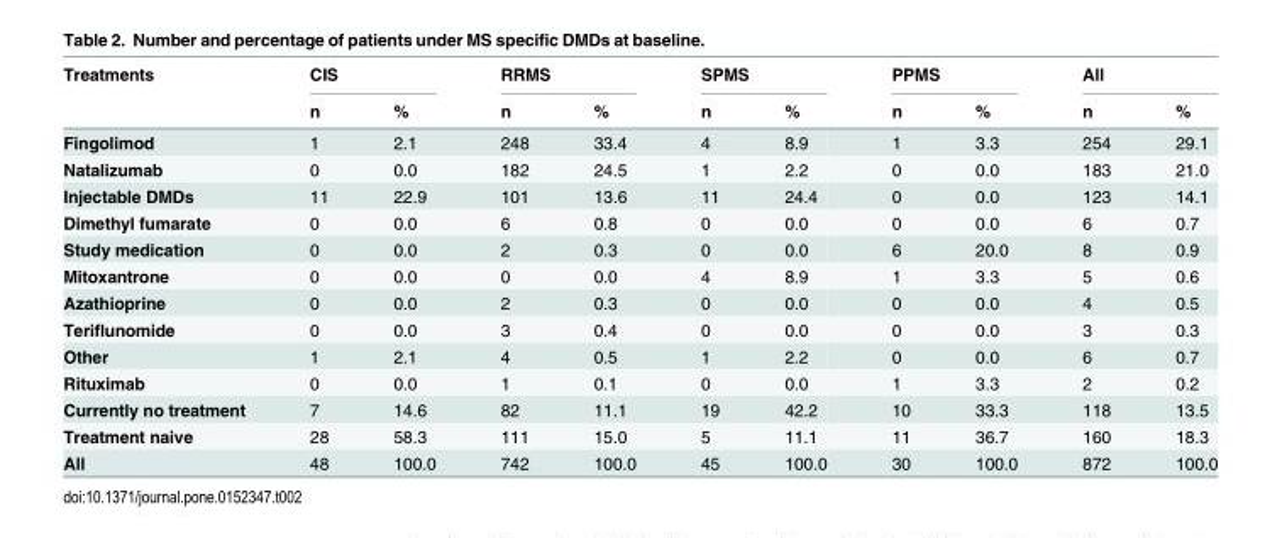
<table><thead><tr><td rowspan="2">Treatments</td><td colspan="2">CIS</td><td colspan="2">RRMS</td><td colspan="2">SPMS</td><td colspan="2">PPMS</td><td colspan="2">All</td></tr><tr><td>n</td><td>%</td><td>n</td><td>%</td><td>n</td><td>%</td><td>n</td><td>%</td><td>n</td><td>%</td></tr></thead><tbody><tr><td>Fingolimod</td><td>1</td><td>2.1</td><td>248</td><td>33.4</td><td>4</td><td>8.9</td><td>1</td><td>3.3</td><td>254</td><td>29.1</td></tr><tr><td>Natalizumab</td><td>0</td><td>0.0</td><td>182</td><td>24.5</td><td>1</td><td>2.2</td><td>0</td><td>0.0</td><td>183</td><td>21.0</td></tr><tr><td>Injectable DMDs</td><td>11</td><td>22.9</td><td>101</td><td>13.6</td><td>11</td><td>24.4</td><td>0</td><td>0.0</td><td>123</td><td>14.1</td></tr><tr><td>Dimethyl fumarate</td><td>0</td><td>0.0</td><td>6</td><td>0.8</td><td>0</td><td>0.0</td><td>0</td><td>0.0</td><td>6</td><td>0.7</td></tr><tr><td>Study medication</td><td>0</td><td>0.0</td><td>2</td><td>0.3</td><td>0</td><td>0.0</td><td>6</td><td>20.0</td><td>8</td><td>0.9</td></tr><tr><td>Mitoxantrone</td><td>0</td><td>0.0</td><td>0</td><td>0.0</td><td>4</td><td>8.9</td><td>1</td><td>3.3</td><td>5</td><td>0.6</td></tr><tr><td>Azathioprine</td><td>0</td><td>0.0</td><td>2</td><td>0.3</td><td>0</td><td>0.0</td><td>0</td><td>0.0</td><td>4</td><td>0.5</td></tr><tr><td>Teriflunomide</td><td>0</td><td>0.0</td><td>3</td><td>0.4</td><td>0</td><td>0.0</td><td>0</td><td>0.0</td><td>3</td><td>0.3</td></tr><tr><td>Other</td><td>1</td><td>2.1</td><td>4</td><td>0.5</td><td>1</td><td>2.2</td><td>0</td><td>0.0</td><td>6</td><td>0.7</td></tr><tr><td>Rituximab</td><td>0</td><td>0.0</td><td>1</td><td>0.1</td><td>0</td><td>0.0</td><td>1</td><td>3.3</td><td>2</td><td>0.2</td></tr><tr><td>Currently no treatment</td><td>7</td><td>14.6</td><td>82</td><td>11.1</td><td>19</td><td>42.2</td><td>10</td><td>33.3</td><td>118</td><td>13.5</td></tr><tr><td>Treatment naive</td><td>28</td><td>58.3</td><td>111</td><td>15.0</td><td>5</td><td>11.1</td><td>11</td><td>36.7</td><td>160</td><td>18.3</td></tr><tr><td>All</td><td>48</td><td>100.0</td><td>742</td><td>100.0</td><td>45</td><td>100.0</td><td>30</td><td>100.0</td><td>872</td><td>100.0</td></tr></tbody></table>